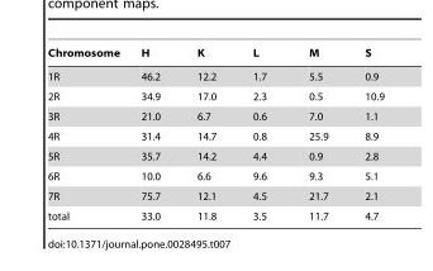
<table><thead><tr><td>Chromosome</td><td>H</td><td>K</td><td>L</td><td>M</td><td>S</td></tr></thead><tbody><tr><td>1R</td><td>46.2</td><td>12.2</td><td>1.7</td><td>5.5</td><td>0.9</td></tr><tr><td>2R</td><td>34.9</td><td>17.0</td><td>2.3</td><td>0.5</td><td>10.9</td></tr><tr><td>3R</td><td>21.0</td><td>6.7</td><td>0.6</td><td>7.0</td><td>1.1</td></tr><tr><td>4R</td><td>31.4</td><td>14.7</td><td>0.8</td><td>25.9</td><td>8.9</td></tr><tr><td>5R</td><td>35.7</td><td>14.2</td><td>4.4</td><td>0.9</td><td>2.8</td></tr><tr><td>6R</td><td>10.0</td><td>6.6</td><td>9.6</td><td>9.3</td><td>5.1</td></tr><tr><td>7R</td><td>75.7</td><td>12.1</td><td>4.5</td><td>21.7</td><td>2.1</td></tr><tr><td>total</td><td>33.0</td><td>11.8</td><td>3.5</td><td>11.7</td><td>4.7</td></tr></tbody></table>